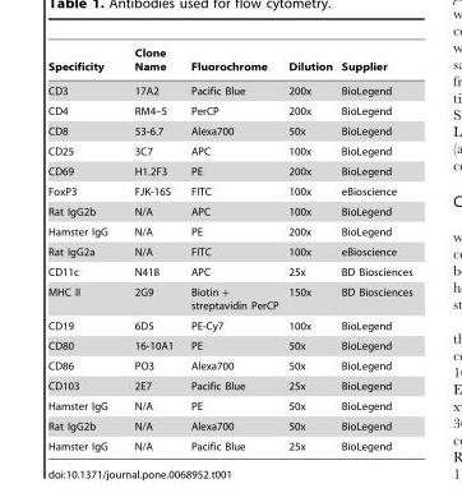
<table><thead><tr><td>Specificity</td><td>Clone Name</td><td>Fluorochrome</td><td>Dilution</td><td>Supplier</td></tr></thead><tbody><tr><td>CD3</td><td>17A2</td><td>Pacific Blue</td><td>200x</td><td>BioLegend</td></tr><tr><td>CD4</td><td>RM4–5</td><td>PerCP</td><td>200x</td><td>BioLegend</td></tr><tr><td>CD8</td><td>53-6.7</td><td>Alexa700</td><td>50x</td><td>BioLegend</td></tr><tr><td>CD25</td><td>3C7</td><td>APC</td><td>100x</td><td>BioLegend</td></tr><tr><td>CD69</td><td>H1.2F3</td><td>PE</td><td>200x</td><td>BioLegend</td></tr><tr><td>FoxP3</td><td>FJK-16S</td><td>FITC</td><td>100x</td><td>eBioscience</td></tr><tr><td>Rat IgG2b</td><td>N/A</td><td>APC</td><td>100x</td><td>BioLegend</td></tr><tr><td>Hamster IgG</td><td>N/A</td><td>PE</td><td>200x</td><td>BioLegend</td></tr><tr><td>Rat IgG2a</td><td>N/A</td><td>FITC</td><td>100x</td><td>eBioscience</td></tr><tr><td>CD11c</td><td>N418</td><td>APC</td><td>25x</td><td>BD Biosciences</td></tr><tr><td>MHC II</td><td>2G9</td><td>Biotin + streptavidin PerCP</td><td>150x</td><td>BD Biosciences</td></tr><tr><td>CD19</td><td>6D5</td><td>PE-Cy7</td><td>100x</td><td>BioLegend</td></tr><tr><td>CD80</td><td>16-10A1</td><td>PE</td><td>50x</td><td>BioLegend</td></tr><tr><td>CD86</td><td>PO3</td><td>Alexa700</td><td>50x</td><td>BioLegend</td></tr><tr><td>CD103</td><td>2E7</td><td>Pacific Blue</td><td>25x</td><td>BioLegend</td></tr><tr><td>Hamster IgG</td><td>N/A</td><td>PE</td><td>50x</td><td>BioLegend</td></tr><tr><td>Rat IgG2b</td><td>N/A</td><td>Alexa700</td><td>50x</td><td>BioLegend</td></tr><tr><td>Hamster IgG</td><td>N/A</td><td>Pacific Blue</td><td>25x</td><td>BioLegend</td></tr></tbody></table>